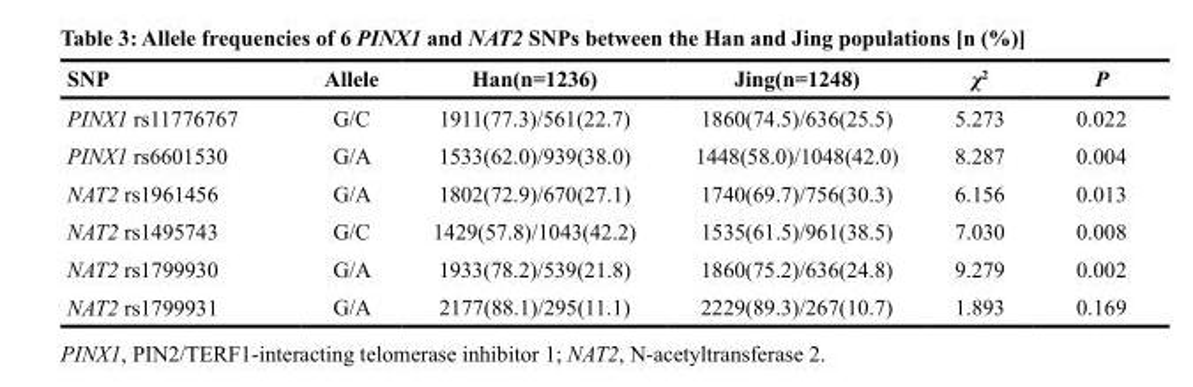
<table><thead><tr><td>SNP</td><td>Allele</td><td>Han(n=1236)</td><td>Jing(n=1248)</td><td>χ<sup>2</sup></td><td>P</td></tr></thead><tbody><tr><td>PINX1 rs11776767</td><td>G/C</td><td>1911(77.3)/561(22.7)</td><td>1860(74.5)/636(25.5)</td><td>5.273</td><td>0.022</td></tr><tr><td>PINX1 rs6601530</td><td>G/A</td><td>1533(62.0)/939(38.0)</td><td>1448(58.0)/1048(42.0)</td><td>8.287</td><td>0.004</td></tr><tr><td>NAT2 rs1961456</td><td>G/A</td><td>1802(72.9)/670(27.1)</td><td>1740(69.7)/756(30.3)</td><td>6.156</td><td>0.013</td></tr><tr><td>NAT2 rs1495743</td><td>G/C</td><td>1429(57.8)/1043(42.2)</td><td>1535(61.5)/961(38.5)</td><td>7.030</td><td>0.008</td></tr><tr><td>NAT2 rs1799930</td><td>G/A</td><td>1933(78.2)/539(21.8)</td><td>1860(75.2)/636(24.8)</td><td>9.279</td><td>0.002</td></tr><tr><td>NAT2 rs1799931</td><td>G/A</td><td>2177(88.1)/295(11.1)</td><td>2229(89.3)/267(10.7)</td><td>1.893</td><td>0.169</td></tr></tbody></table>